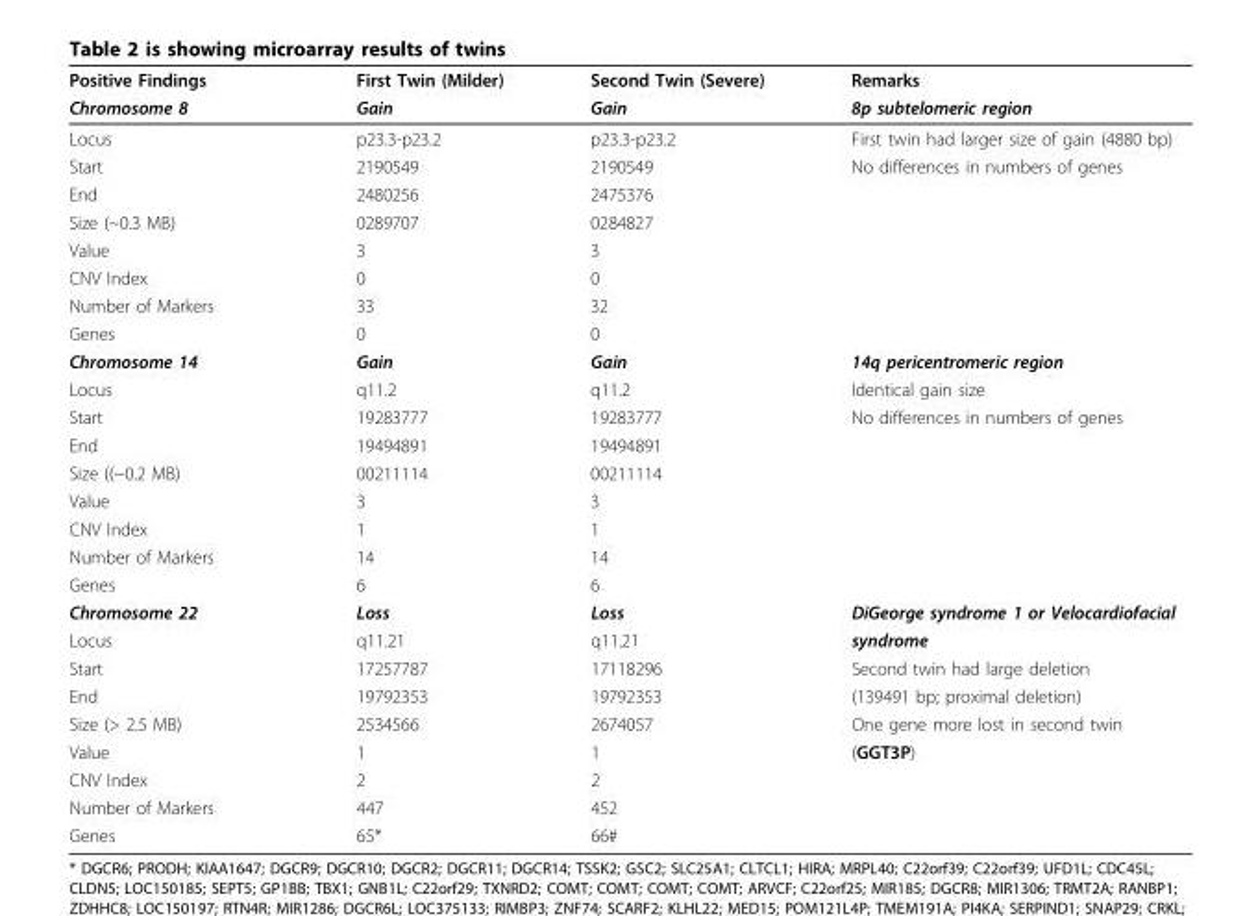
<table><thead><tr><td rowspan="2">Positive Findings Chromosome 8</td><td rowspan="2">First Twin (Milder) Gain</td><td rowspan="2">Second Twin (Severe) Gain</td><td rowspan="2">Remarks 8p subtelomeric region</td></tr><tr></tr></thead><tbody><tr><td>Locus</td><td>p23.3-p23.2</td><td>p23.3-p23.2</td><td>First twin had larger size of gain (4880 bp)</td></tr><tr><td>Start</td><td>2190549</td><td>2190549</td><td>No differences in numbers of genes</td></tr><tr><td>End</td><td>2480256</td><td>2475376</td><td></td></tr><tr><td>Size (~0.3 MB)</td><td>0289707</td><td>0284827</td><td></td></tr><tr><td>Value</td><td>3</td><td>3</td><td></td></tr><tr><td>CNV Index</td><td>0</td><td>0</td><td></td></tr><tr><td>Number of Markers</td><td>33</td><td>32</td><td></td></tr><tr><td>Genes</td><td>0</td><td>0</td><td></td></tr><tr><td>Chromosome 14</td><td>Gain</td><td>Gain</td><td>14q pericentromeric region</td></tr><tr><td>Locus</td><td>q11.2</td><td>q11.2</td><td>Identical gain size</td></tr><tr><td>Start</td><td>19283777</td><td>19283777</td><td>No differences in numbers of genes</td></tr><tr><td>End</td><td>19494891</td><td>19494891</td><td></td></tr><tr><td>Size ((~0.2 MB)</td><td>00211114</td><td>00211114</td><td></td></tr><tr><td>Value</td><td>3</td><td>3</td><td></td></tr><tr><td>CNV Index</td><td>1</td><td>1</td><td></td></tr><tr><td>Number of Markers</td><td>14</td><td>14</td><td></td></tr><tr><td>Genes</td><td>6</td><td>6</td><td></td></tr><tr><td>Chromosome 22</td><td>Loss</td><td>Loss</td><td>DiGeorge syndrome 1 or Velocardiofacial</td></tr><tr><td>Locus</td><td>q11.21</td><td>q11.21</td><td>syndrome</td></tr><tr><td>Start</td><td>17257787</td><td>17118296</td><td>Second twin had large deletion</td></tr><tr><td>End</td><td>19792353</td><td>19792353</td><td>(139491 bp; proximal deletion)</td></tr><tr><td>Size (&gt; 2.5 MB)</td><td>2534566</td><td>2674057</td><td>One gene more lost in second twin</td></tr><tr><td>Value</td><td>1</td><td>1</td><td>(GGT3P)</td></tr><tr><td>CNV Index</td><td>2</td><td>2</td><td></td></tr><tr><td>Number of Markers</td><td>447</td><td>452</td><td></td></tr><tr><td>Genes</td><td>65*</td><td>66#</td><td></td></tr></tbody></table>